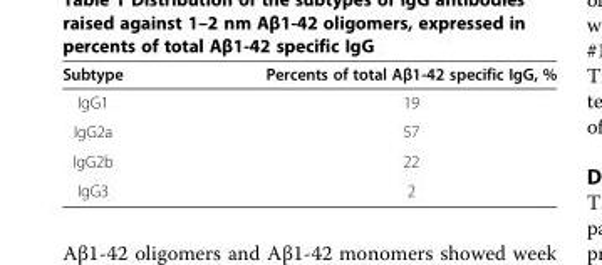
<table><thead><tr><td>Subtype</td><td>Percents of total Aβ1-42 specific IgG,</td></tr></thead><tbody><tr><td>IgG1</td><td>19</td></tr><tr><td>IgG2a</td><td>57</td></tr><tr><td>IgG2b</td><td>22</td></tr><tr><td>IgG3</td><td>2</td></tr></tbody></table>